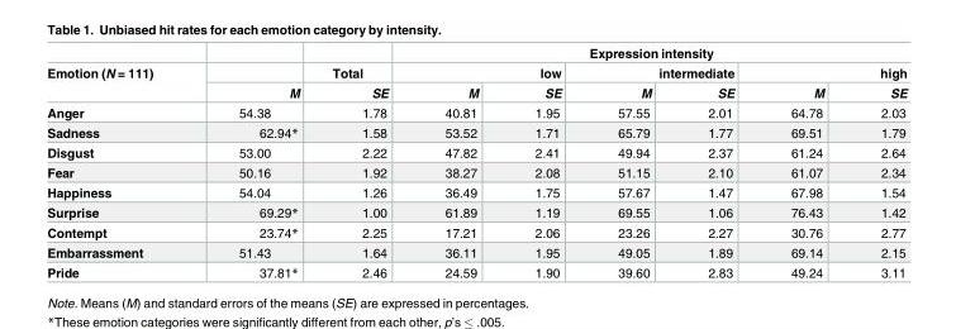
<table><thead><tr><td rowspan="3">Emotion (N = 111)</td><td rowspan="3">M</td><td rowspan="3">Total SE</td><td colspan="6">Expression intensity</td></tr><tr><td colspan="2">low</td><td colspan="2">intermediate</td><td colspan="2">high</td></tr><tr><td>M</td><td>SE</td><td>M</td><td>SE</td><td>M</td><td>SE</td></tr></thead><tbody><tr><td>Anger</td><td>54.38</td><td>1.78</td><td>40.81</td><td>1.95</td><td>57.55</td><td>2.01</td><td>64.78</td><td>2.03</td></tr><tr><td>Sadness</td><td>62.94*</td><td>1.58</td><td>53.52</td><td>1.71</td><td>65.79</td><td>1.77</td><td>69.51</td><td>1.79</td></tr><tr><td>Disgust</td><td>53.00</td><td>2.22</td><td>47.82</td><td>2.41</td><td>49.94</td><td>2.37</td><td>61.24</td><td>2.64</td></tr><tr><td>Fear</td><td>50.16</td><td>1.92</td><td>38.27</td><td>2.08</td><td>51.15</td><td>2.10</td><td>61.07</td><td>2.34</td></tr><tr><td>Happiness</td><td>54.04</td><td>1.26</td><td>36.49</td><td>1.75</td><td>57.67</td><td>1.47</td><td>67.98</td><td>1.54</td></tr><tr><td>Surprise</td><td>69.29*</td><td>1.00</td><td>61.89</td><td>1.19</td><td>69.55</td><td>1.06</td><td>76.43</td><td>1.42</td></tr><tr><td>Contempt</td><td>23.74*</td><td>2.25</td><td>17.21</td><td>2.06</td><td>23.26</td><td>2.27</td><td>30.76</td><td>2.77</td></tr><tr><td>Embarrassment</td><td>51.43</td><td>1.64</td><td>36.11</td><td>1.95</td><td>49.05</td><td>1.89</td><td>69.14</td><td>2.15</td></tr><tr><td>Pride</td><td>37.81*</td><td>2.46</td><td>24.59</td><td>1.90</td><td>39.60</td><td>2.83</td><td>49.24</td><td>3.11</td></tr></tbody></table>